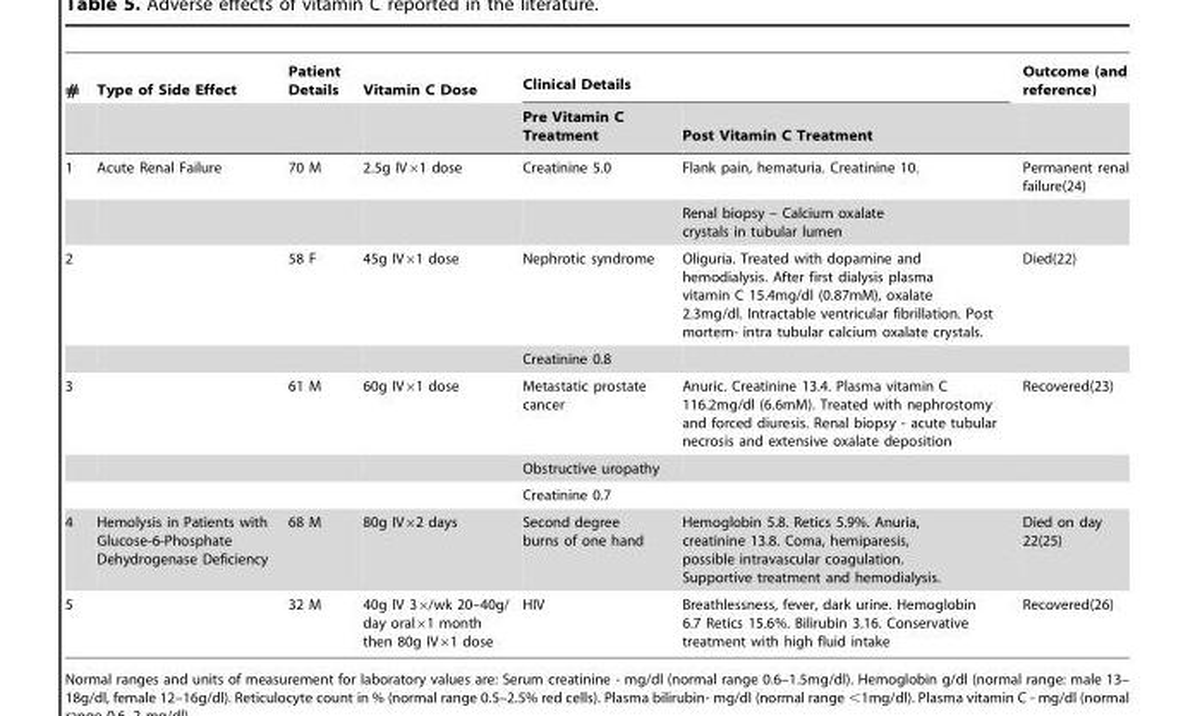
<table><thead><tr><td rowspan="2">#</td><td rowspan="2">Type of Side Effect</td><td rowspan="2">Patient Details</td><td rowspan="2">Vitamin C Dose</td><td colspan="2">Clinical Details</td><td rowspan="2">Outcome (and reference)</td></tr><tr><td>Pre Vitamin C Treatment</td><td>Post Vitamin C Treatment</td></tr></thead><tbody><tr><td rowspan="2">1</td><td>Acute Renal Failure</td><td>70 M</td><td>2.5g IV×1 dose</td><td>Creatinine 5.0</td><td>Flank pain, hematuria. Creatinine 10.</td><td>Permanent renal failure(24)</td></tr><tr><td></td><td></td><td></td><td></td><td>Renal biopsy – Calcium oxalate crystals in tubular lumen</td><td></td></tr><tr><td rowspan="2">2</td><td></td><td>58 F</td><td>45g IV×1 dose</td><td>Nephrotic syndrome</td><td>Oliguria. Treated with dopamine and hemodialysis. After first dialysis plasma vitamin C 15.4mg/dl (0.87mM), oxalate 2.3mg/dl. Intractable ventricular fibrillation. Post mortem- intra tubular calcium oxalate crystals.</td><td>Died(22)</td></tr><tr><td></td><td></td><td></td><td>Creatinine 0.8</td><td></td><td></td></tr><tr><td rowspan="3">3</td><td></td><td>61 M</td><td>60g IV×1 dose</td><td>Metastatic prostate cancer</td><td>Anuric. Creatinine 13.4. Plasma vitamin C 116.2mg/dl (6.6mM). Treated with nephrostomy and forced diuresis. Renal biopsy - acute tubular necrosis and extensive oxalate deposition</td><td>Recovered(23)</td></tr><tr><td></td><td></td><td></td><td>Obstructive uropathy</td><td></td><td></td></tr><tr><td></td><td></td><td></td><td>Creatinine 0.7</td><td></td><td></td></tr><tr><td>4</td><td>Hemolysis in Patients with Glucose-6-Phosphate Dehydrogenase Deficiency</td><td>68 M</td><td>80g IV×2 days</td><td>Second degree burns of one hand</td><td>Hemoglobin 5.8. Retics 5.9%. Anuria, creatinine 13.8. Coma, hemiparesis, possible intravascular coagulation. Supportive treatment and hemodialysis.</td><td>Died on day 22(25)</td></tr><tr><td>5</td><td></td><td>32 M</td><td>40g IV 3×/wk 20–40g/ day oral×1 month then 80g IV×1 dose</td><td>HIV</td><td>Breathlessness, fever, dark urine. Hemoglobin 6.7 Retics 15.6%. Bilirubin 3.16. Conservative treatment with high fluid intake</td><td>Recovered(26)</td></tr></tbody></table>